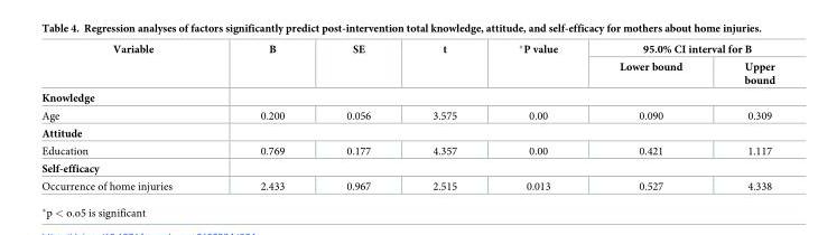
<table><thead><tr><td rowspan="2">Variable</td><td rowspan="2">B</td><td rowspan="2">SE</td><td rowspan="2">t</td><td rowspan="2">*P value</td><td colspan="2">95.0% CI interval for B</td></tr><tr><td>Lower bound</td><td>Upper bound</td></tr></thead><tbody><tr><td colspan="7">Knowledge</td></tr><tr><td>Age</td><td>0.200</td><td>0.056</td><td>3.575</td><td>0.00</td><td>0.090</td><td>0.309</td></tr><tr><td colspan="7">Attitude</td></tr><tr><td>Education</td><td>0.769</td><td>0.177</td><td>4.357</td><td>0.00</td><td>0.421</td><td>1.117</td></tr><tr><td colspan="7">Self-efficacy</td></tr><tr><td>Occurrence of home injuries</td><td>2.433</td><td>0.967</td><td>2.515</td><td>0.013</td><td>0.527</td><td>4.338</td></tr></tbody></table>